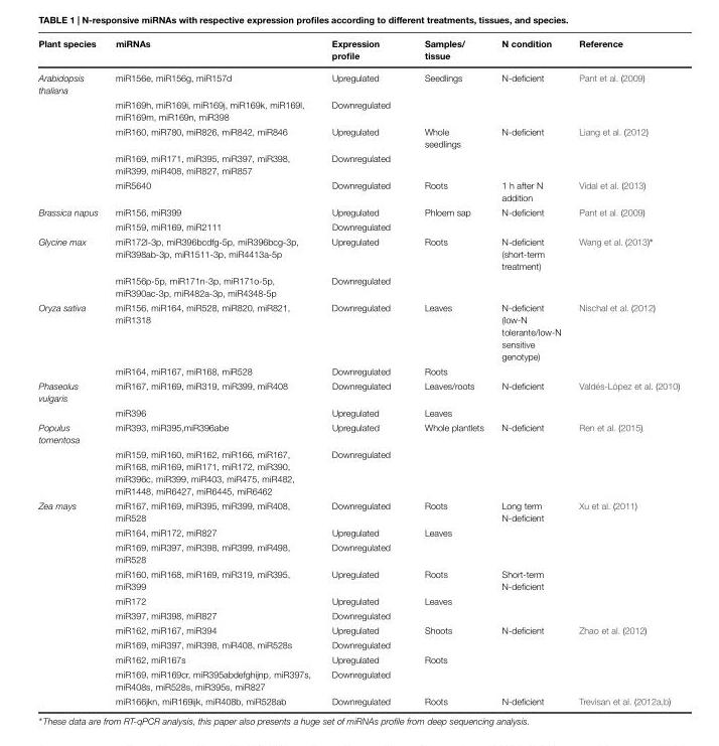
<table><thead><tr><td>Plant species</td><td>miRNAs</td><td>Expression profile</td><td>Samples/ tissue</td><td>N condition</td><td>Reference</td></tr></thead><tbody><tr><td rowspan="5">Arabidopsis thaliana</td><td>miR156e, miR156g, miR157d</td><td>Upregulated</td><td>Seedlings</td><td>N-deficient</td><td>Pant et al. (2009)</td></tr><tr><td>miR169h, miR169i, miR169j, miR169k, miR169l, miR169m, miR169n, miR398</td><td>Downregulated</td><td></td><td></td><td></td></tr><tr><td>miR160, miR780, miR826, miR842, miR846</td><td>Upregulated</td><td>Whole seedlings</td><td>N-deficient</td><td>Liang et al. (2012)</td></tr><tr><td>miR169, miR171, miR395, miR397, miR398, miR399, miR408, miR827, miR857</td><td>Downregulated</td><td></td><td></td><td></td></tr><tr><td>miR5640</td><td>Downregulated</td><td>Roots</td><td>1 h after N addition</td><td>Vidal et al. (2013)</td></tr><tr><td rowspan="2">Brassica napus</td><td>miR156, miR399</td><td>Upregulated</td><td>Phloem sap</td><td>N-deficient</td><td>Pant et al. (2009)</td></tr><tr><td>miR159, miR169, miR2111</td><td>Downregulated</td><td></td><td></td><td></td></tr><tr><td rowspan="2">Glycine max</td><td>miR172l-3p, miR396bcdfg-5p, miR396bcg-3p, miR398ab-3p, miR1511-3p, miR4413a-5p</td><td>Upregulated</td><td>Roots</td><td>N-deficient (short-term treatment)</td><td>Wang et al. (2013)∗</td></tr><tr><td>miR156p-5p, miR171n-3p, miR171o-5p, miR390ac-3p, miR482a-3p, miR4348-5p</td><td>Downregulated</td><td></td><td></td><td></td></tr><tr><td rowspan="2">Oryza sativa</td><td>miR156, miR164, miR528, miR820, miR821, miR1318</td><td>Downregulated</td><td>Leaves</td><td>N-deficient (low-N tolerante/low-N sensitive genotype)</td><td>Nischal et al. (2012)</td></tr><tr><td>miR164, miR167, miR168, miR528</td><td>Downregulated</td><td>Roots</td><td></td><td></td></tr><tr><td rowspan="2">Phaseolus vulgaris</td><td>miR167, miR169, miR319, miR399, miR408</td><td>Downregulated</td><td>Leaves/roots</td><td>N-deficient</td><td>Valdés-López et al. (2010)</td></tr><tr><td>miR396</td><td>Upregulated</td><td>Leaves</td><td></td><td></td></tr><tr><td rowspan="2">Populus tomentosa</td><td>miR393, miR395,miR396abe</td><td>Upregulated</td><td>Whole plantlets</td><td>N-deficient</td><td>Ren et al. (2015)</td></tr><tr><td>miR159, miR160, miR162, miR166, miR167, miR168, miR169, miR171, miR172, miR390, miR396c, miR399, miR403, miR475, miR482, miR1448, miR6427, miR6445, miR6462</td><td>Downregulated</td><td></td><td></td><td></td></tr><tr><td rowspan="11">Zea mays</td><td>miR167, miR169, miR395, miR399, miR408, miR528</td><td>Downregulated</td><td>Roots</td><td>Long term N-deficient</td><td>Xu et al. (2011)</td></tr><tr><td>miR164, miR172, miR827</td><td>Upregulated</td><td>Leaves</td><td></td><td></td></tr><tr><td>miR169, miR397, miR398, miR399, miR498, miR528</td><td>Downregulated</td><td></td><td></td><td></td></tr><tr><td>miR160, miR168, miR169, miR319, miR395, miR399</td><td>Upregulated</td><td>Roots</td><td>Short-term N-deficient</td><td></td></tr><tr><td>miR172</td><td>Upregulated</td><td>Leaves</td><td></td><td></td></tr><tr><td>miR397, miR398, miR827</td><td>Downregulated</td><td></td><td></td><td></td></tr><tr><td>miR162, miR167, miR394</td><td>Upregulated</td><td>Shoots</td><td>N-deficient</td><td>Zhao et al. (2012)</td></tr><tr><td>miR169, miR397, miR398, miR408, miR528s</td><td>Downregulated</td><td></td><td></td><td></td></tr><tr><td>miR162, miR167s</td><td>Upregulated</td><td>Roots</td><td></td><td></td></tr><tr><td>miR169, miR169cr, miR395abdefghijnp, miR397s, miR408s, miR528s, miR395s, miR827</td><td>Downregulated</td><td></td><td></td><td></td></tr><tr><td>miR166jkn, miR169ijk, miR408b, miR528ab</td><td>Downregulated</td><td>Roots</td><td>N-deficient</td><td>Trevisan et al. (2012a,b)</td></tr></tbody></table>